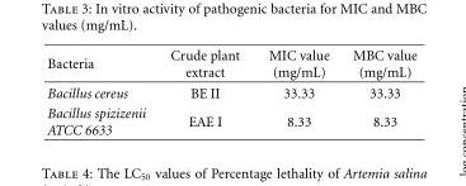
<table><thead><tr><td>Bacteria</td><td>Crude plant extract</td><td>MIC value (mg/mL)</td><td>MBC value (mg/mL)</td></tr></thead><tbody><tr><td>Bacillus cereus</td><td>BE II</td><td>33.33</td><td>33.33</td></tr><tr><td>Bacillus spizizenii ATCC 6633</td><td>EAE I</td><td>8.33</td><td>8.33</td></tr></tbody></table>